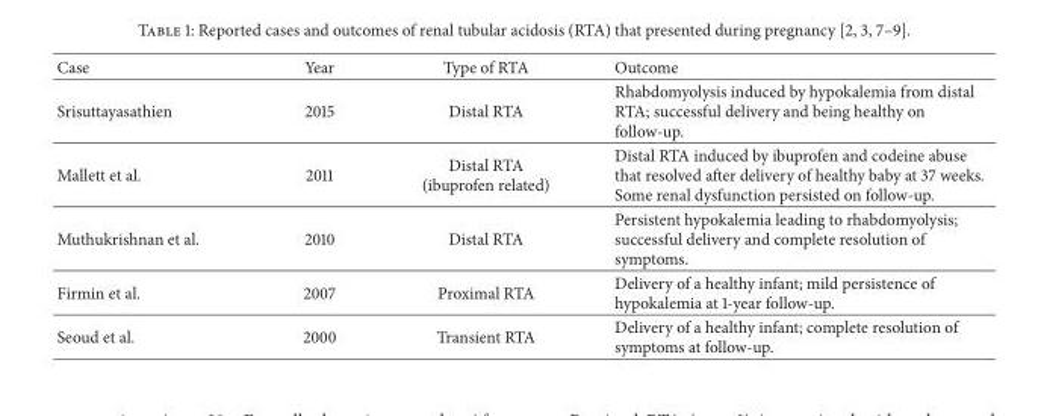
<table><thead><tr><td>Case</td><td>Year</td><td>Type of RTA</td><td>Outcome</td></tr></thead><tbody><tr><td>Srisuttayasathien</td><td>2015</td><td>Distal RTA</td><td>Rhabdomyolysis induced by hypokalemia from distal RTA; successful delivery and being healthy on follow-up.</td></tr><tr><td>Mallett et al.</td><td>2011</td><td>Distal RTA (ibuprofen related)</td><td>Distal RTA induced by ibuprofen and codeine abuse that resolved after delivery of healthy baby at 37 weeks. Some renal dysfunction persisted on follow-up.</td></tr><tr><td>Muthukrishnan et al.</td><td>2010</td><td>Distal RTA</td><td>Persistent hypokalemia leading to rhabdomyolysis; successful delivery and complete resolution of symptoms.</td></tr><tr><td>Firmin et al.</td><td>2007</td><td>Proximal RTA</td><td>Delivery of a healthy infant; mild persistence of hypokalemia at 1-year follow-up.</td></tr><tr><td>Seoud et al.</td><td>2000</td><td>Transient RTA</td><td>Delivery of a healthy infant; complete resolution of symptoms at follow-up.</td></tr></tbody></table>